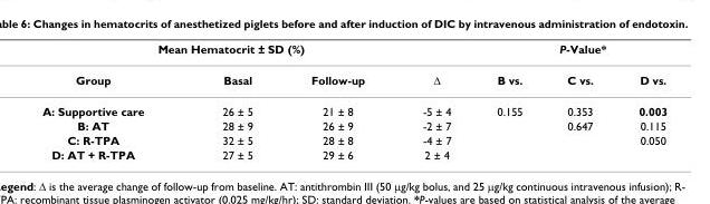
<table><thead><tr><td colspan="4">Mean Hematocrit ± SD (%)</td><td colspan="3">P-Value*</td></tr><tr><td>Group</td><td>Basal</td><td>Follow-up</td><td>Δ</td><td>B vs.</td><td>C vs.</td><td>D vs.</td></tr></thead><tbody><tr><td>A: Supportive care</td><td>26 ± 5</td><td>21 ± 8</td><td>-5 ± 4</td><td>0.155</td><td>0.353</td><td>0.003</td></tr><tr><td>B: AT</td><td>28 ± 9</td><td>26 ± 9</td><td>-2 ± 7</td><td></td><td>0.647</td><td>0.115</td></tr><tr><td>C: R-TPA</td><td>32 ± 5</td><td>28 ± 8</td><td>-4 ± 7</td><td></td><td></td><td>0.050</td></tr><tr><td>D: AT + R-TPA</td><td>27 ± 5</td><td>29 ± 6</td><td>2 ± 4</td><td></td><td></td><td></td></tr></tbody></table>